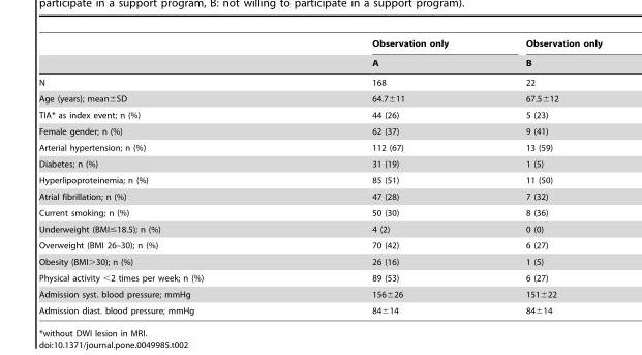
<table><thead><tr><td rowspan="2"></td><td rowspan="2">Observation only A</td><td rowspan="2">Observation only B</td></tr><tr></tr></thead><tbody><tr><td>N</td><td>168</td><td>22</td></tr><tr><td>Age (years); mean±SD</td><td>64.7±11</td><td>67.5±12</td></tr><tr><td>TIA* as index event; n (%)</td><td>44 (26)</td><td>5 (23)</td></tr><tr><td>Female gender; n (%)</td><td>62 (37)</td><td>9 (41)</td></tr><tr><td>Arterial hypertension; n (%)</td><td>112 (67)</td><td>13 (59)</td></tr><tr><td>Diabetes; n (%)</td><td>31 (19)</td><td>1 (5)</td></tr><tr><td>Hyperlipoproteinemia; n (%)</td><td>85 (51)</td><td>11 (50)</td></tr><tr><td>Atrial fibrillation; n (%)</td><td>47 (28)</td><td>7 (32)</td></tr><tr><td>Current smoking; n (%)</td><td>50 (30)</td><td>8 (36)</td></tr><tr><td>Underweight (BMI≤18.5); n (%)</td><td>4 (2)</td><td>0 (0)</td></tr><tr><td>Overweight (BMI 26–30); n (%)</td><td>70 (42)</td><td>6 (27)</td></tr><tr><td>Obesity (BMI&gt;30); n (%)</td><td>26 (16)</td><td>1 (5)</td></tr><tr><td>Physical activity &lt;2 times per week; n (%)</td><td>89 (53)</td><td>6 (27)</td></tr><tr><td>Admission syst. blood pressure; mmHg</td><td>156±26</td><td>151±22</td></tr><tr><td>Admission diast. blood pressure; mmHg</td><td>84±14</td><td>84±14</td></tr></tbody></table>